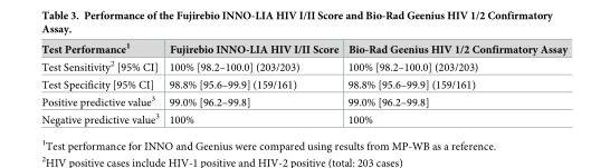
<table><thead><tr><td>Test Performance<sup>1</sup></td><td>Fujirebio INNO-LIA HIV I/II Score</td><td>Bio-Rad Geenius HIV 1/2 Confirmatory Assay</td></tr></thead><tbody><tr><td>Test Sensitivity<sup>2</sup> [95% CI]</td><td>100% [98.2–100.0] (203/203)</td><td>100% [98.2–100.0] (203/203)</td></tr><tr><td>Test Specificity [95% CI]</td><td>98.8% [95.6–99.9] (159/161)</td><td>98.8% [95.6–99.9] (159/161)</td></tr><tr><td>Positive predictive value<sup>3</sup></td><td>99.0% [96.2–99.8]</td><td>99.0% [96.2–99.8]</td></tr><tr><td>Negative predictive value<sup>3</sup></td><td>100%</td><td>100%</td></tr></tbody></table>